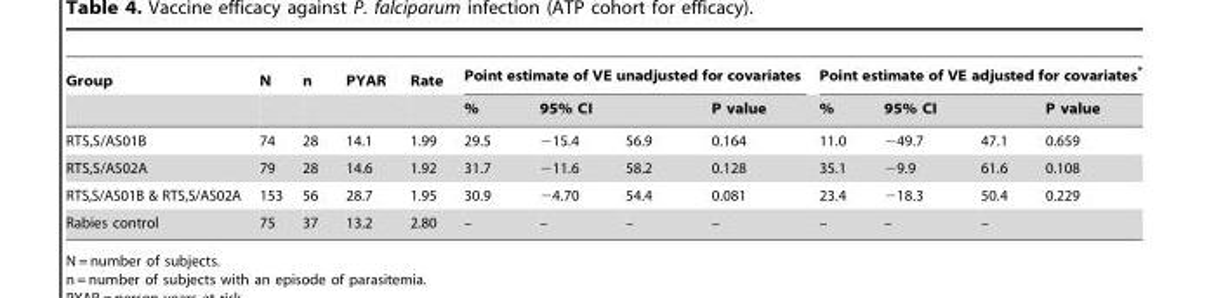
<table><thead><tr><td rowspan="3">Group RTS,S/AS01B</td><td rowspan="3">N 74</td><td rowspan="3">n 28</td><td rowspan="3">PYAR 14.1</td><td rowspan="3">Rate 1.99</td><td colspan="4">Point estimate of VE unadjusted for covariates</td><td colspan="4">Point estimate of VE adjusted for covariates*</td></tr><tr><td rowspan="2">% 29.5</td><td colspan="2">95% CI</td><td rowspan="2">P value 0.164</td><td rowspan="2">% 11.0</td><td colspan="2">95% CI</td><td rowspan="2">P value 0.659</td></tr><tr><td>−15.4</td><td>56.9</td><td>−49.7</td><td>47.1</td></tr></thead><tbody><tr><td>RTS,S/AS02A</td><td>79</td><td>28</td><td>14.6</td><td>1.92</td><td>31.7</td><td>−11.6</td><td>58.2</td><td>0.128</td><td>35.1</td><td>−9.9</td><td>61.6</td><td>0.108</td></tr><tr><td>RTS,S/AS01B &amp; RTS,S/AS02A</td><td>153</td><td>56</td><td>28.7</td><td>1.95</td><td>30.9</td><td>−4.70</td><td>54.4</td><td>0.081</td><td>23.4</td><td>−18.3</td><td>50.4</td><td>0.229</td></tr><tr><td>Rabies control</td><td>75</td><td>37</td><td>13.2</td><td>2.80</td><td>–</td><td>–</td><td>–</td><td>–</td><td>–</td><td>–</td><td>–</td><td></td></tr></tbody></table>